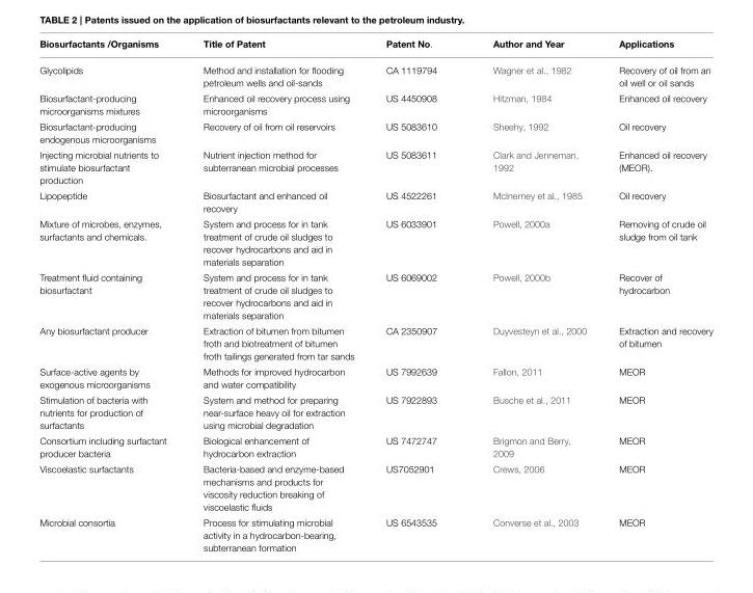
<table><thead><tr><td>Biosurfactants /Organisms</td><td>Title of Patent</td><td>Patent No.</td><td>Author and Year</td><td>Applications</td></tr></thead><tbody><tr><td>Glycolipids</td><td>Method and installation for flooding petroleum wells and oil-sands</td><td>CA 1119794</td><td>Wagner et al., 1982</td><td>Recovery of oil from an oil well or oil sands</td></tr><tr><td>Biosurfactant-producing microorganisms mixtures</td><td>Enhanced oil recovery process using microorganisms</td><td>US 4450908</td><td>Hitzman, 1984</td><td>Enhanced oil recovery</td></tr><tr><td>Biosurfactant-producing endogenous microorganisms</td><td>Recovery of oil from oil reservoirs</td><td>US 5083610</td><td>Sheehy, 1992</td><td>Oil recovery</td></tr><tr><td>Injecting microbial nutrients to stimulate biosurfactant production</td><td>Nutrient injection method for subterranean microbial processes</td><td>US 5083611</td><td>Clark and Jenneman, 1992</td><td>Enhanced oil recovery (MEOR).</td></tr><tr><td>Lipopeptide</td><td>Biosurfactant and enhanced oil recovery</td><td>US 4522261</td><td>McInerney et al., 1985</td><td>Oil recovery</td></tr><tr><td>Mixture of microbes, enzymes, surfactants and chemicals.</td><td>System and process for in tank treatment of crude oil sludges to recover hydrocarbons and aid in materials separation</td><td>US 6033901</td><td>Powell, 2000a</td><td>Removing of crude oil sludge from oil tank</td></tr><tr><td>Treatment fluid containing biosurfactant</td><td>System and process for in tank treatment of crude oil sludges to recover hydrocarbons and aid in materials separation</td><td>US 6069002</td><td>Powell, 2000b</td><td>Recover of hydrocarbon</td></tr><tr><td>Any biosurfactant producer</td><td>Extraction of bitumen from bitumen froth and biotreatment of bitumen froth tailings generated from tar sands</td><td>CA 2350907</td><td>Duyvesteyn et al., 2000</td><td>Extraction and recovery of bitumen</td></tr><tr><td>Surface-active agents by exogenous microorganisms</td><td>Methods for improved hydrocarbon and water compatibility</td><td>US 7992639</td><td>Fallon, 2011</td><td>MEOR</td></tr><tr><td>Stimulation of bacteria with nutrients for production of surfactants</td><td>System and method for preparing near-surface heavy oil for extraction using microbial degradation</td><td>US 7922893</td><td>Busche et al., 2011</td><td>MEOR</td></tr><tr><td>Consortium including surfactant producer bacteria</td><td>Biological enhancement of hydrocarbon extraction</td><td>US 7472747</td><td>Brigmon and Berry, 2009</td><td>MEOR</td></tr><tr><td>Viscoelastic surfactants</td><td>Bacteria-based and enzyme-based mechanisms and products for viscosity reduction breaking of viscoelastic fluids</td><td>US7052901</td><td>Crews, 2006</td><td>MEOR</td></tr><tr><td>Microbial consortia</td><td>Process for stimulating microbial activity in a hydrocarbon-bearing, subterranean formation</td><td>US 6543535</td><td>Converse et al., 2003</td><td>MEOR</td></tr></tbody></table>